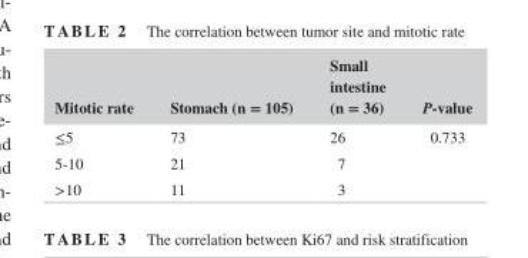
<table><thead><tr><td>Mitotic rate</td><td>Stomach (n = 105)</td><td>Small intestine (n = 36)</td><td>P- value</td></tr></thead><tbody><tr><td>≤5</td><td>73</td><td>26</td><td rowspan="3">0.733</td></tr><tr><td>5- 10</td><td>21</td><td>7</td></tr><tr><td>&gt;10</td><td>11</td><td>3</td></tr></tbody></table>